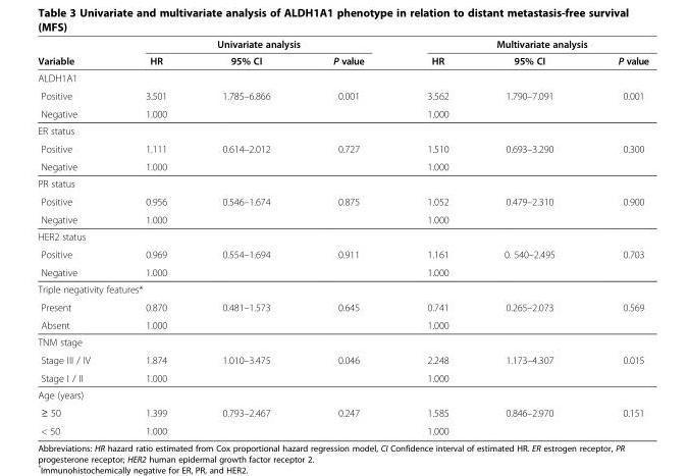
<table><thead><tr><td rowspan="2">Variable</td><td colspan="3">Univariate analysis</td><td colspan="3">Multivariate analysis</td></tr><tr><td>HR</td><td>95% CI</td><td>P value</td><td>HR</td><td>95% CI</td><td>P value</td></tr></thead><tbody><tr><td colspan="7">ALDH1A1</td></tr><tr><td>Positive</td><td>3.501</td><td>1.785–6.866</td><td>0.001</td><td>3.562</td><td>1.790–7.091</td><td>0.001</td></tr><tr><td>Negative</td><td>1.000</td><td></td><td></td><td>1.000</td><td></td><td></td></tr><tr><td colspan="7">ER status</td></tr><tr><td>Positive</td><td>1.111</td><td>0.614–2.012</td><td>0.727</td><td>1.510</td><td>0.693–3.290</td><td>0.300</td></tr><tr><td>Negative</td><td>1.000</td><td></td><td></td><td>1.000</td><td></td><td></td></tr><tr><td colspan="7">PR status</td></tr><tr><td>Positive</td><td>0.956</td><td>0.546–1.674</td><td>0.875</td><td>1.052</td><td>0.479–2.310</td><td>0.900</td></tr><tr><td>Negative</td><td>1.000</td><td></td><td></td><td>1.000</td><td></td><td></td></tr><tr><td colspan="7">HER2 status</td></tr><tr><td>Positive</td><td>0.969</td><td>0.554–1.694</td><td>0.911</td><td>1.161</td><td>0. 540–2.495</td><td>0.703</td></tr><tr><td>Negative</td><td>1.000</td><td></td><td></td><td>1.000</td><td></td><td></td></tr><tr><td colspan="7">Triple negativity features*</td></tr><tr><td>Present</td><td>0.870</td><td>0.481–1.573</td><td>0.645</td><td>0.741</td><td>0.265–2.073</td><td>0.569</td></tr><tr><td>Absent</td><td>1.000</td><td></td><td></td><td>1.000</td><td></td><td></td></tr><tr><td colspan="7">TNM stage</td></tr><tr><td>Stage III / IV</td><td>1.874</td><td>1.010–3.475</td><td>0.046</td><td>2.248</td><td>1.173–4.307</td><td>0.015</td></tr><tr><td>Stage I / II</td><td>1.000</td><td></td><td></td><td>1.000</td><td></td><td></td></tr><tr><td colspan="7">Age (years)</td></tr><tr><td>≥ 50</td><td>1.399</td><td>0.793–2.467</td><td>0.247</td><td>1.585</td><td>0.846–2.970</td><td>0.151</td></tr><tr><td>&lt; 50</td><td>1.000</td><td></td><td></td><td>1.000</td><td></td><td></td></tr></tbody></table>